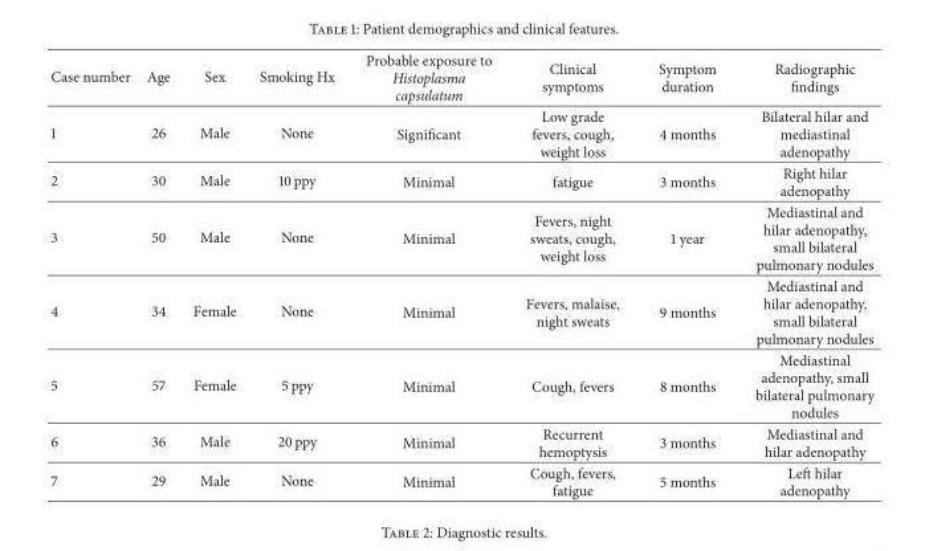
<table><thead><tr><td>Case number</td><td>Age</td><td>Sex</td><td>Smoking Hx</td><td>Probable exposure to Histoplasma capsulatum</td><td>Clinical symptoms</td><td>Symptom duration</td><td>Radiographic findings</td></tr></thead><tbody><tr><td>1</td><td>26</td><td>Male</td><td>None</td><td>Significant</td><td>Low grade fevers, cough, weight loss</td><td>4 months</td><td>Bilateral hilar and mediastinal adenopathy</td></tr><tr><td>2</td><td>30</td><td>Male</td><td>10 ppy</td><td>Minimal</td><td>fatigue</td><td>3 months</td><td>Right hilar adenopathy</td></tr><tr><td>3</td><td>50</td><td>Male</td><td>None</td><td>Minimal</td><td>Fevers, night sweats, cough, weight loss</td><td>1 year</td><td>Mediastinal and hilar adenopathy, small bilateral pulmonary nodules</td></tr><tr><td>4</td><td>34</td><td>Female</td><td>None</td><td>Minimal</td><td>Fevers, malaise, night sweats</td><td>9 months</td><td>Mediastinal and hilar adenopathy, small bilateral pulmonary nodules</td></tr><tr><td>5</td><td>57</td><td>Female</td><td>5 ppy</td><td>Minimal</td><td>Cough, fevers</td><td>8 months</td><td>Mediastinal adenopathy, small bilateral pulmonary nodules</td></tr><tr><td>6</td><td>36</td><td>Male</td><td>20 ppy</td><td>Minimal</td><td>Recurrent hemoptysis</td><td>3 months</td><td>Mediastinal and hilar adenopathy</td></tr><tr><td>7</td><td>29</td><td>Male</td><td>None</td><td>Minimal</td><td>Cough, fevers, fatigue</td><td>5 months</td><td>Left hilar adenopathy</td></tr></tbody></table>